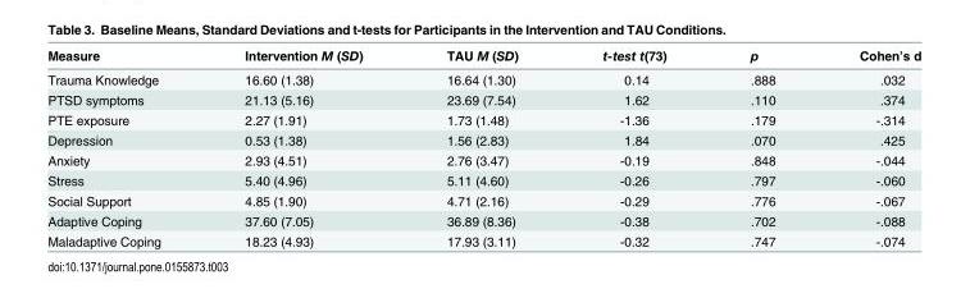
<table><thead><tr><td>Measure</td><td>Intervention M (SD)</td><td>TAU M (SD)</td><td>t-test t(73)</td><td>p</td><td>Cohen’s d</td></tr></thead><tbody><tr><td>Trauma Knowledge</td><td>16.60 (1.38)</td><td>16.64 (1.30)</td><td>0.14</td><td>.888</td><td>.032</td></tr><tr><td>PTSD symptoms</td><td>21.13 (5.16)</td><td>23.69 (7.54)</td><td>1.62</td><td>.110</td><td>.374</td></tr><tr><td>PTE exposure</td><td>2.27 (1.91)</td><td>1.73 (1.48)</td><td>-1.36</td><td>.179</td><td>-.314</td></tr><tr><td>Depression</td><td>0.53 (1.38)</td><td>1.56 (2.83)</td><td>1.84</td><td>.070</td><td>.425</td></tr><tr><td>Anxiety</td><td>2.93 (4.51)</td><td>2.76 (3.47)</td><td>-0.19</td><td>.848</td><td>-.044</td></tr><tr><td>Stress</td><td>5.40 (4.96)</td><td>5.11 (4.60)</td><td>-0.26</td><td>.797</td><td>-.060</td></tr><tr><td>Social Support</td><td>4.85 (1.90)</td><td>4.71 (2.16)</td><td>-0.29</td><td>.776</td><td>-.067</td></tr><tr><td>Adaptive Coping</td><td>37.60 (7.05)</td><td>36.89 (8.36)</td><td>-0.38</td><td>.702</td><td>-.088</td></tr><tr><td>Maladaptive Coping</td><td>18.23 (4.93)</td><td>17.93 (3.11)</td><td>-0.32</td><td>.747</td><td>-.074</td></tr></tbody></table>